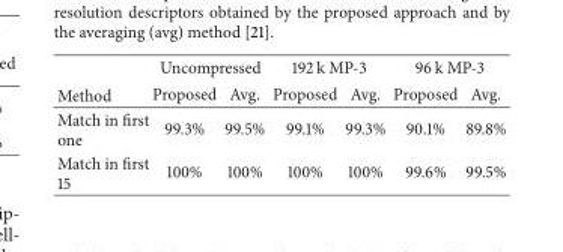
<table><thead><tr><td rowspan="2">Method</td><td colspan="2">Uncompressed</td><td colspan="2">192 k MP-3</td><td colspan="2">96 k MP-3</td></tr><tr><td>Proposed</td><td>Avg.</td><td>Proposed</td><td>Avg.</td><td>Proposed</td><td>Avg.</td></tr></thead><tbody><tr><td>Match in first one</td><td>99.3%</td><td>99.5%</td><td>99.1%</td><td>99.3%</td><td>90.1%</td><td>89.8%</td></tr><tr><td>Match in first 15</td><td>100%</td><td>100%</td><td>100%</td><td>100%</td><td>99.6%</td><td>99.5%</td></tr></tbody></table>